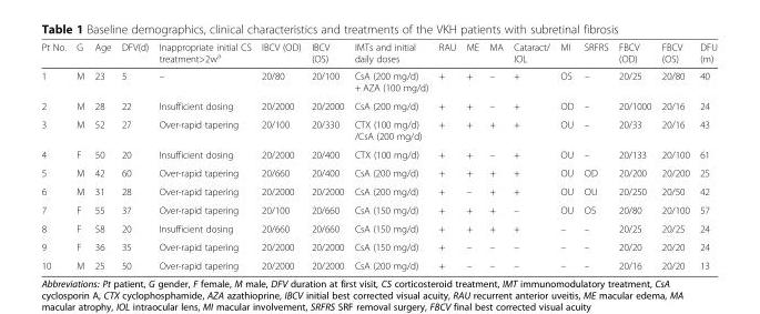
<table><thead><tr><td>Pt No.</td><td>G</td><td>Age</td><td>DFV(d)</td><td>Inappropriate initial CS treatment&gt;2w<sup>a</sup></td><td>IBCV (OD)</td><td>IBCV (OS)</td><td>IMTs and initial daily doses</td><td>RAU</td><td>ME</td><td>MA</td><td>Cataract/ IOL</td><td>MI</td><td>SRFRS</td><td>FBCV (OD)</td><td>FBCV (OS)</td><td>DFU (m)</td></tr></thead><tbody><tr><td>1</td><td>M</td><td>23</td><td>5</td><td>–</td><td>20/80</td><td>20/100</td><td>CsA (200 mg/d) + AZA (100 mg/d)</td><td>+</td><td>+</td><td>–</td><td>+</td><td>OS</td><td>–</td><td>20/25</td><td>20/80</td><td>40</td></tr><tr><td>2</td><td>M</td><td>28</td><td>22</td><td>Insufficient dosing</td><td>20/2000</td><td>20/2000</td><td>CsA (200 mg/d)</td><td>+</td><td>+</td><td>–</td><td>+</td><td>OD</td><td>–</td><td>20/1000</td><td>20/16</td><td>24</td></tr><tr><td>3</td><td>M</td><td>52</td><td>27</td><td>Over-rapid tapering</td><td>20/100</td><td>20/330</td><td>CTX (100 mg/d) /CsA (200 mg/d)</td><td>+</td><td>+</td><td>+</td><td>+</td><td>OU</td><td>–</td><td>20/33</td><td>20/16</td><td>43</td></tr><tr><td>4</td><td>F</td><td>50</td><td>20</td><td>Insufficient dosing</td><td>20/2000</td><td>20/400</td><td>CTX (100 mg/d)</td><td>+</td><td>+</td><td>–</td><td>+</td><td>OU</td><td>–</td><td>20/133</td><td>20/100</td><td>61</td></tr><tr><td>5</td><td>M</td><td>42</td><td>60</td><td>Over-rapid tapering</td><td>20/660</td><td>20/400</td><td>CsA (200 mg/d)</td><td>+</td><td>+</td><td>+</td><td>+</td><td>OU</td><td>OD</td><td>20/200</td><td>20/200</td><td>25</td></tr><tr><td>6</td><td>M</td><td>31</td><td>28</td><td>Over-rapid tapering</td><td>20/2000</td><td>20/2000</td><td>CsA (200 mg/d)</td><td>+</td><td>–</td><td>+</td><td>+</td><td>OU</td><td>OU</td><td>20/250</td><td>20/50</td><td>42</td></tr><tr><td>7</td><td>F</td><td>55</td><td>37</td><td>Over-rapid tapering</td><td>20/100</td><td>20/660</td><td>CsA (150 mg/d)</td><td>+</td><td>+</td><td>+</td><td>–</td><td>OU</td><td>OS</td><td>20/80</td><td>20/100</td><td>57</td></tr><tr><td>8</td><td>F</td><td>58</td><td>20</td><td>Insufficient dosing</td><td>20/660</td><td>20/660</td><td>CsA (150 mg/d)</td><td>+</td><td>+</td><td>+</td><td>+</td><td>–</td><td>–</td><td>20/25</td><td>20/25</td><td>24</td></tr><tr><td>9</td><td>F</td><td>36</td><td>35</td><td>Over-rapid tapering</td><td>20/2000</td><td>20/2000</td><td>CsA (150 mg/d)</td><td>+</td><td>–</td><td>–</td><td>–</td><td>–</td><td>–</td><td>20/20</td><td>20/20</td><td>24</td></tr><tr><td>10</td><td>M</td><td>25</td><td>50</td><td>Over-rapid tapering</td><td>20/2000</td><td>20/2000</td><td>CsA (200 mg/d)</td><td>+</td><td>–</td><td>–</td><td>–</td><td>–</td><td>–</td><td>20/16</td><td>20/20</td><td>13</td></tr></tbody></table>